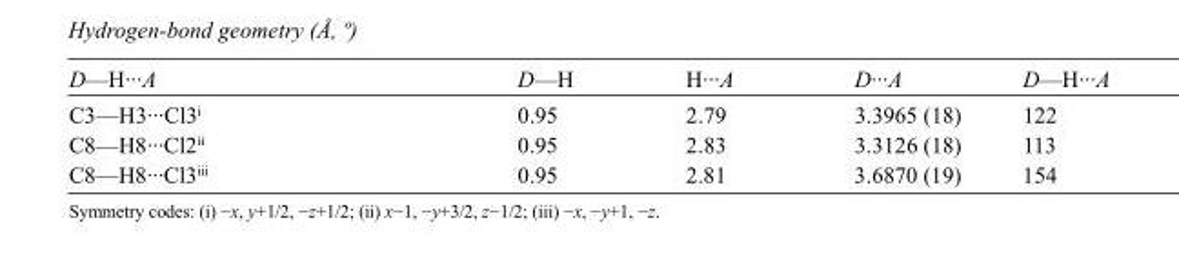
<table><tbody><tr><td>D—H···A</td><td>D—H</td><td>H···A</td><td>D···A</td><td>D—H···A</td></tr><tr><td>C3—H3···Cl3<sup>i</sup></td><td>0.95</td><td>2.79</td><td>3.3965 (18)</td><td>122</td></tr><tr><td>C8—H8···Cl2<sup>ii</sup></td><td>0.95</td><td>2.83</td><td>3.3126 (18)</td><td>113</td></tr><tr><td>C8—H8···Cl3<sup>iii</sup></td><td>0.95</td><td>2.81</td><td>3.6870 (19)</td><td>154</td></tr></tbody></table>